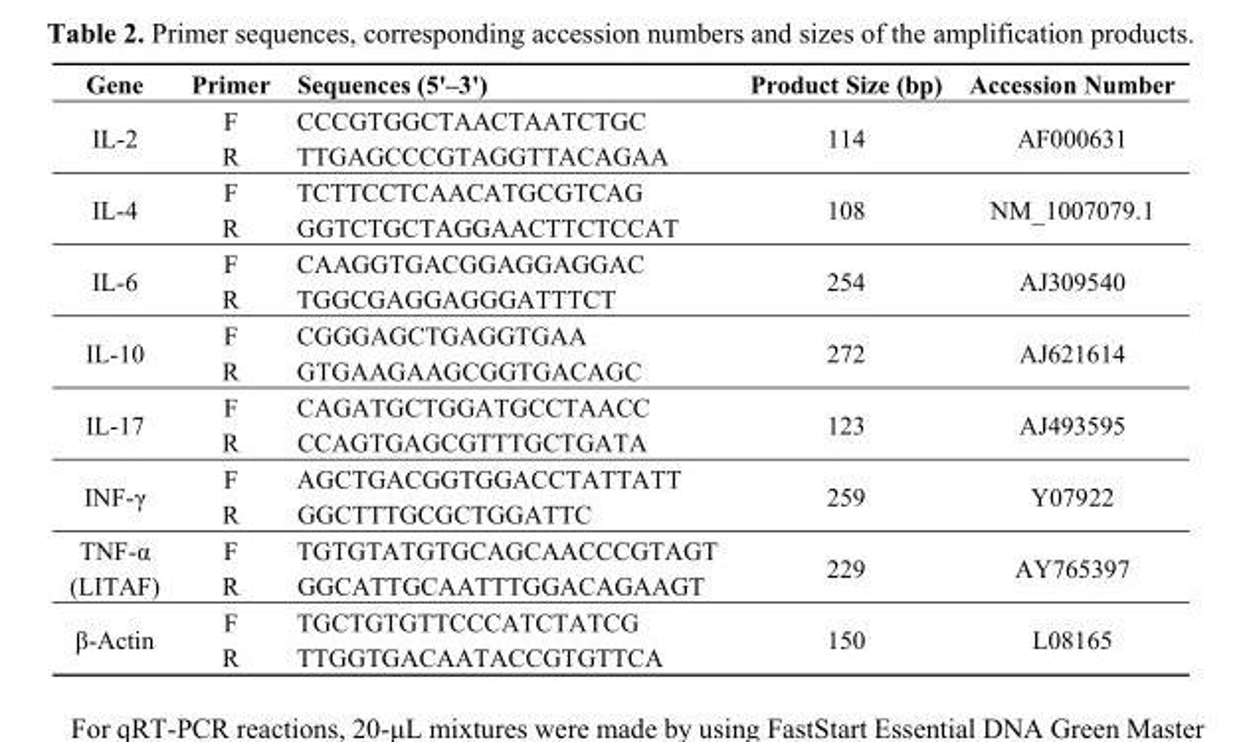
<table><thead><tr><td>Gene</td><td>Primer</td><td>Sequences (5&#x27;–3&#x27;)</td><td>Product Size (bp)</td><td>Accession Number</td></tr></thead><tbody><tr><td rowspan="2">IL-2</td><td>F</td><td>CCCGTGGCTAACTAATCTGC</td><td rowspan="2">114</td><td rowspan="2">AF000631</td></tr><tr><td>R</td><td>TTGAGCCCGTAGGTTACAGAA</td></tr><tr><td rowspan="2">IL-4</td><td>F</td><td>TCTTCCTCAACATGCGTCAG</td><td rowspan="2">108</td><td rowspan="2">NM_1007079.1</td></tr><tr><td>R</td><td>GGTCTGCTAGGAACTTCTCCAT</td></tr><tr><td rowspan="2">IL-6</td><td>F</td><td>CAAGGTGACGGAGGAGGAC</td><td rowspan="2">254</td><td rowspan="2">AJ309540</td></tr><tr><td>R</td><td>TGGCGAGGAGGGATTTCT</td></tr><tr><td rowspan="2">IL-10</td><td>F</td><td>CGGGAGCTGAGGTGAA</td><td rowspan="2">272</td><td rowspan="2">AJ621614</td></tr><tr><td>R</td><td>GTGAAGAAGCGGTGACAGC</td></tr><tr><td rowspan="2">IL-17</td><td>F</td><td>CAGATGCTGGATGCCTAACC</td><td rowspan="2">123</td><td rowspan="2">AJ493595</td></tr><tr><td>R</td><td>CCAGTGAGCGTTTGCTGATA</td></tr><tr><td rowspan="2">INF-γ</td><td>F</td><td>AGCTGACGGTGGACCTATTATT</td><td rowspan="2">259</td><td rowspan="2">Y07922</td></tr><tr><td>R</td><td>GGCTTTGCGCTGGATTC</td></tr><tr><td rowspan="2">TNF-α (LITAF)</td><td>F</td><td>TGTGTATGTGCAGCAACCCGTAGT</td><td rowspan="2">229</td><td rowspan="2">AY765397</td></tr><tr><td>R</td><td>GGCATTGCAATTTGGACAGAAGT</td></tr><tr><td rowspan="2">β-Actin</td><td>F</td><td>TGCTGTGTTCCCATCTATCG</td><td rowspan="2">150</td><td rowspan="2">L08165</td></tr><tr><td>R</td><td>TTGGTGACAATACCGTGTTCA</td></tr></tbody></table>